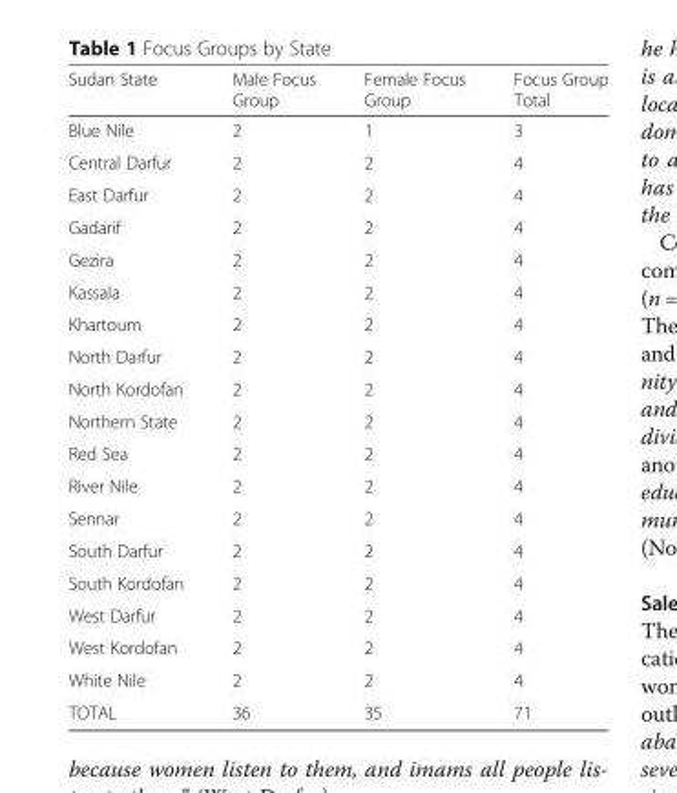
<table><thead><tr><td>Sudan State</td><td>Male Focus Group</td><td>Female Focus Group</td><td>Focus Group Total</td></tr></thead><tbody><tr><td>Blue Nile</td><td>2</td><td>1</td><td>3</td></tr><tr><td>Central Darfur</td><td>2</td><td>2</td><td>4</td></tr><tr><td>East Darfur</td><td>2</td><td>2</td><td>4</td></tr><tr><td>Gadarif</td><td>2</td><td>2</td><td>4</td></tr><tr><td>Gezira</td><td>2</td><td>2</td><td>4</td></tr><tr><td>Kassala</td><td>2</td><td>2</td><td>4</td></tr><tr><td>Khartoum</td><td>2</td><td>2</td><td>4</td></tr><tr><td>North Darfur</td><td>2</td><td>2</td><td>4</td></tr><tr><td>North Kordofan</td><td>2</td><td>2</td><td>4</td></tr><tr><td>Northern State</td><td>2</td><td>2</td><td>4</td></tr><tr><td>Red Sea</td><td>2</td><td>2</td><td>4</td></tr><tr><td>River Nile</td><td>2</td><td>2</td><td>4</td></tr><tr><td>Sennar</td><td>2</td><td>2</td><td>4</td></tr><tr><td>South Darfur</td><td>2</td><td>2</td><td>4</td></tr><tr><td>South Kordofan</td><td>2</td><td>2</td><td>4</td></tr><tr><td>West Darfur</td><td>2</td><td>2</td><td>4</td></tr><tr><td>West Kordofan</td><td>2</td><td>2</td><td>4</td></tr><tr><td>White Nile</td><td>2</td><td>2</td><td>4</td></tr><tr><td>TOTAL</td><td>36</td><td>35</td><td>71</td></tr></tbody></table>